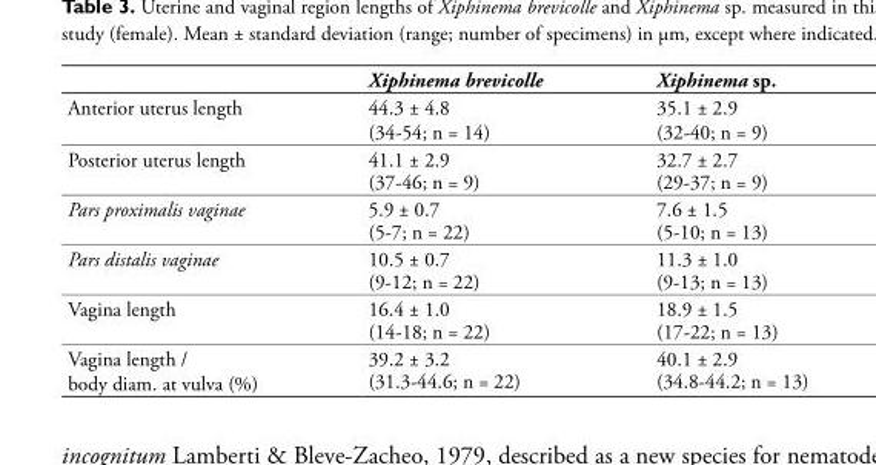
<table><thead><tr><td></td><td>Xiphinema brevicolle</td><td>Xiphinema sp.</td></tr></thead><tbody><tr><td>Anterior uterus length</td><td>44.3 ± 4.8 (34-54; n = 14)</td><td>35.1 ± 2.9 (32-40; n = 9)</td></tr><tr><td>Posterior uterus length</td><td>41.1 ± 2.9 (37-46; n = 9)</td><td>32.7 ± 2.7 (29-37; n = 9)</td></tr><tr><td>Pars proximalis vaginae</td><td>5.9 ± 0.7 (5-7; n = 22)</td><td>7.6 ± 1.5 (5-10; n = 13)</td></tr><tr><td>Pars distalis vaginae</td><td>10.5 ± 0.7 (9-12; n = 22)</td><td>11.3 ± 1.0 (9-13; n = 13)</td></tr><tr><td>Vagina length</td><td>16.4 ± 1.0 (14-18; n = 22)</td><td>18.9 ± 1.5 (17-22; n = 13)</td></tr><tr><td>Vagina length / body diam. at vulva (%)</td><td>39.2 ± 3.2 (31.3-44.6; n = 22)</td><td>40.1 ± 2.9 (34.8-44.2; n = 13)</td></tr></tbody></table>